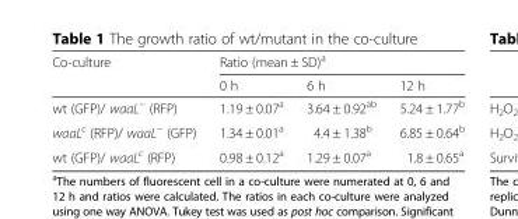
<table><thead><tr><td rowspan="2">Co-culture</td><td colspan="3">Ratio (mean ± SD)<sup>a</sup></td></tr><tr><td>0 h</td><td>6 h</td><td>12 h</td></tr></thead><tbody><tr><td>wt (GFP)/ waaL<sup>−</sup> (RFP)</td><td>1.19 ± 0.07<sup>a</sup></td><td>3.64 ± 0.92<sup>ab</sup></td><td>5.24 ± 1.77<sup>b</sup></td></tr><tr><td>waaL<sup>c</sup> (RFP)/ waaL<sup>−</sup> (GFP)</td><td>1.34 ± 0.01<sup>a</sup></td><td>4.4 ± 1.38<sup>b</sup></td><td>6.85 ± 0.64<sup>b</sup></td></tr><tr><td>wt (GFP)/ waaL<sup>c</sup> (RFP)</td><td>0.98 ± 0.12<sup>a</sup></td><td>1.29 ± 0.07<sup>a</sup></td><td>1.8 ± 0.65<sup>a</sup></td></tr></tbody></table>